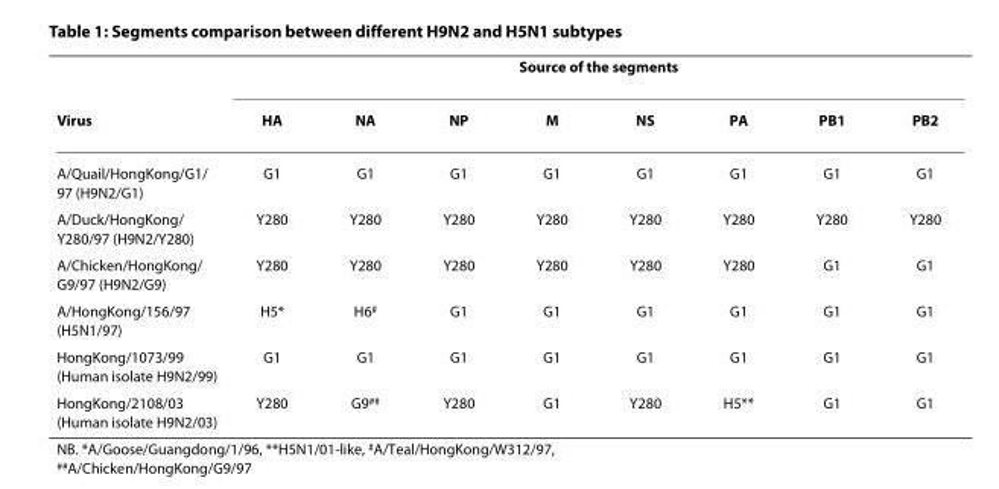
<table><thead><tr><td rowspan="2">Virus</td><td colspan="8">Source of the segments</td></tr><tr><td>HA</td><td>NA</td><td>NP</td><td>M</td><td>NS</td><td>PA</td><td>PB1</td><td>PB2</td></tr></thead><tbody><tr><td>A/Quail/HongKong/G1/ 97 (H9N2/G1)</td><td>G1</td><td>G1</td><td>G1</td><td>G1</td><td>G1</td><td>G1</td><td>G1</td><td>G1</td></tr><tr><td>A/Duck/HongKong/ Y280/97 (H9N2/Y280)</td><td>Y280</td><td>Y280</td><td>Y280</td><td>Y280</td><td>Y280</td><td>Y280</td><td>Y280</td><td>Y280</td></tr><tr><td>A/Chicken/HongKong/ G9/97 (H9N2/G9)</td><td>Y280</td><td>Y280</td><td>Y280</td><td>Y280</td><td>Y280</td><td>Y280</td><td>G1</td><td>G1</td></tr><tr><td>A/HongKong/156/97 (H5N1/97)</td><td>H5*</td><td>H6<sup>#</sup></td><td>G1</td><td>G1</td><td>G1</td><td>G1</td><td>G1</td><td>G1</td></tr><tr><td>HongKong/1073/99 (Human isolate H9N2/99)</td><td>G1</td><td>G1</td><td>G1</td><td>G1</td><td>G1</td><td>G1</td><td>G1</td><td>G1</td></tr><tr><td>HongKong/2108/03 (Human isolate H9N2/03)</td><td>Y280</td><td>G9<sup>##</sup></td><td>Y280</td><td>G1</td><td>Y280</td><td>H5**</td><td>G1</td><td>G1</td></tr></tbody></table>